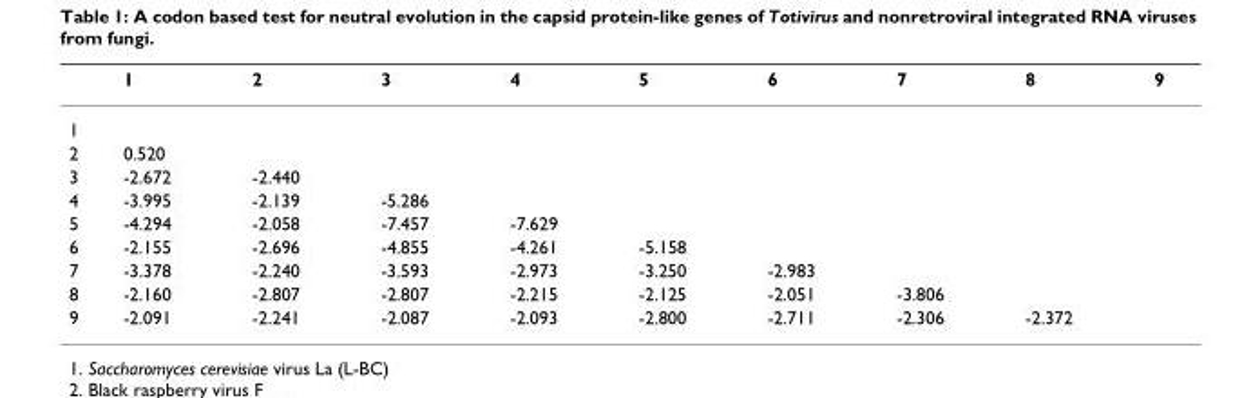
<table><thead><tr><td></td><td>1</td><td>2</td><td>3</td><td>4</td><td>5</td><td>6</td><td>7</td><td>8</td><td>9</td></tr></thead><tbody><tr><td colspan="10">1</td></tr><tr><td>2</td><td>0.520</td><td></td><td></td><td></td><td></td><td></td><td></td><td></td><td></td></tr><tr><td>3</td><td>-2.672</td><td>-2.440</td><td></td><td></td><td></td><td></td><td></td><td></td><td></td></tr><tr><td>4</td><td>-3.995</td><td>-2.139</td><td>-5.286</td><td></td><td></td><td></td><td></td><td></td><td></td></tr><tr><td>5</td><td>-4.294</td><td>-2.058</td><td>-7.457</td><td>-7.629</td><td></td><td></td><td></td><td></td><td></td></tr><tr><td>6</td><td>-2.155</td><td>-2.696</td><td>-4.855</td><td>-4.261</td><td>-5.158</td><td></td><td></td><td></td><td></td></tr><tr><td>7</td><td>-3.378</td><td>-2.240</td><td>-3.593</td><td>-2.973</td><td>-3.250</td><td>-2.983</td><td></td><td></td><td></td></tr><tr><td>8</td><td>-2.160</td><td>-2.807</td><td>-2.807</td><td>-2.215</td><td>-2.125</td><td>-2.051</td><td>-3.806</td><td></td><td></td></tr><tr><td>9</td><td>-2.091</td><td>-2.241</td><td>-2.087</td><td>-2.093</td><td>-2.800</td><td>-2.711</td><td>-2.306</td><td>-2.372</td><td></td></tr></tbody></table>